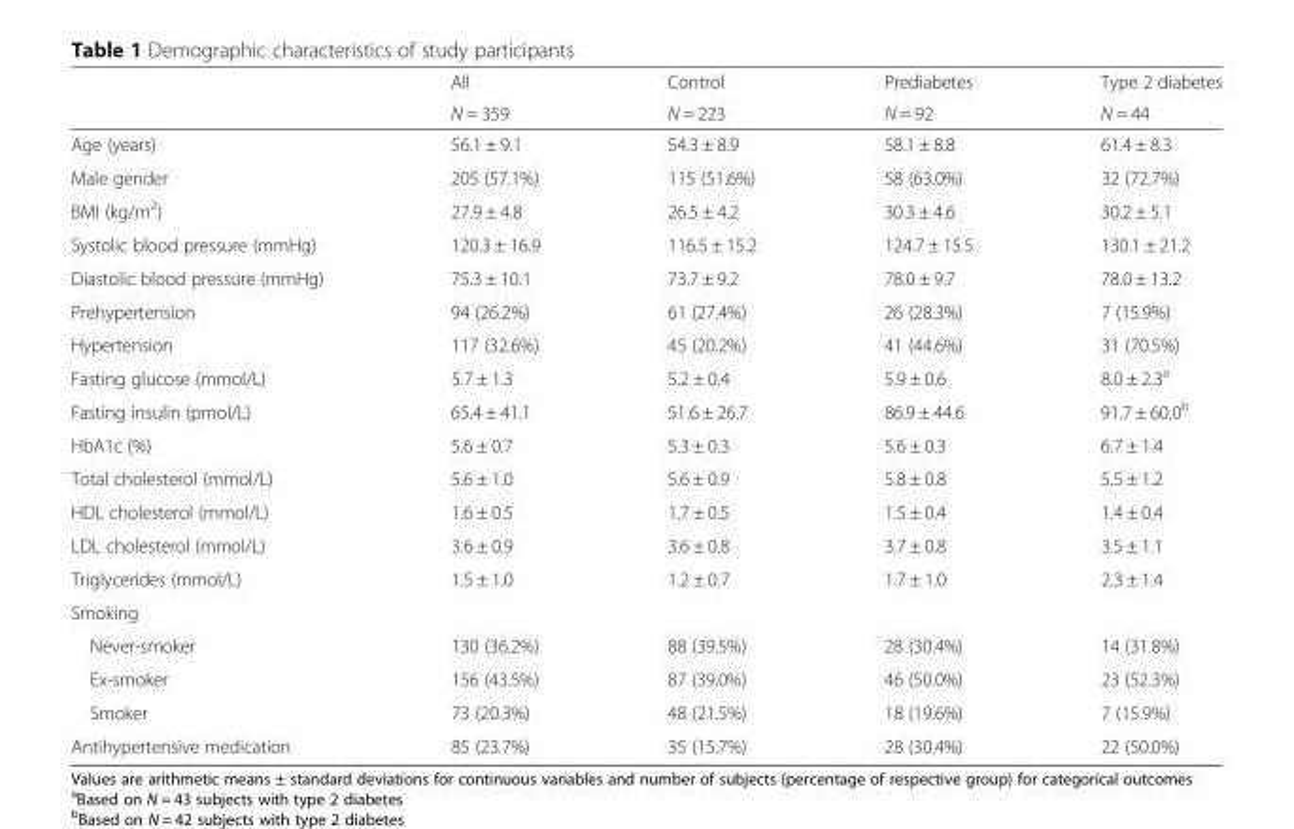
<table><thead><tr><td rowspan="2"></td><td rowspan="2">All N = 359</td><td rowspan="2">Control N = 223</td><td rowspan="2">Prediabetes N = 92</td><td rowspan="2">Type 2 diabetes N = 44</td></tr><tr></tr></thead><tbody><tr><td>Age (years)</td><td>56.1 ± 9.1</td><td>54.3 ± 8.9</td><td>58.1 ± 8.8</td><td>61.4 ± 8.3</td></tr><tr><td>Male gender</td><td>205 (57.1%)</td><td>115 (51.6%)</td><td>58 (63.0%)</td><td>32 (72.7%)</td></tr><tr><td>BMI (kg/m<sup>2</sup>)</td><td>27.9 ± 4.8</td><td>26.5 ± 4.2</td><td>30.3 ± 4.6</td><td>30.2 ± 5.1</td></tr><tr><td>Systolic blood pressure (mmHg)</td><td>120.3 ± 16.9</td><td>116.5 ± 15.2</td><td>124.7 ± 15.5</td><td>130.1 ± 21.2</td></tr><tr><td>Diastolic blood pressure (mmHg)</td><td>75.3 ± 10.1</td><td>73.7 ± 9.2</td><td>78.0 ± 9.7</td><td>78.0 ± 13.2</td></tr><tr><td>Prehypertension</td><td>94 (26.2%)</td><td>61 (27.4%)</td><td>26 (28.3%)</td><td>7 (15.9%)</td></tr><tr><td>Hypertension</td><td>117 (32.6%)</td><td>45 (20.2%)</td><td>41 (44.6%)</td><td>31 (70.5%)</td></tr><tr><td>Fasting glucose (mmol/L)</td><td>5.7 ± 1.3</td><td>5.2 ± 0.4</td><td>5.9 ± 0.6</td><td>8.0 ± 2.3<sup>a</sup></td></tr><tr><td>Fasting insulin (pmol/L)</td><td>65.4 ± 41.1</td><td>51.6 ± 26.7</td><td>86.9 ± 44.6</td><td>91.7 ± 60.0<sup>b</sup></td></tr><tr><td>HbA1c (%)</td><td>5.6 ± 0.7</td><td>5.3 ± 0.3</td><td>5.6 ± 0.3</td><td>6.7 ± 1.4</td></tr><tr><td>Total cholesterol (mmol/L)</td><td>5.6 ± 1.0</td><td>5.6 ± 0.9</td><td>5.8 ± 0.8</td><td>5.5 ± 1.2</td></tr><tr><td>HDL cholesterol (mmol/L)</td><td>1.6 ± 0.5</td><td>1.7 ± 0.5</td><td>1.5 ± 0.4</td><td>1.4 ± 0.4</td></tr><tr><td>LDL cholesterol (mmol/L)</td><td>3.6 ± 0.9</td><td>3.6 ± 0.8</td><td>3.7 ± 0.8</td><td>3.5 ± 1.1</td></tr><tr><td>Triglycerides (mmol/L)</td><td>1.5 ± 1.0</td><td>1.2 ± 0.7</td><td>1.7 ± 1.0</td><td>2.3 ± 1.4</td></tr><tr><td colspan="5">Smoking</td></tr><tr><td>Never-smoker</td><td>130 (36.2%)</td><td>88 (39.5%)</td><td>28 (30.4%)</td><td>14 (31.8%)</td></tr><tr><td>Ex-smoker</td><td>156 (43.5%)</td><td>87 (39.0%)</td><td>46 (50.0%)</td><td>23 (52.3%)</td></tr><tr><td>Smoker</td><td>73 (20.3%)</td><td>48 (21.5%)</td><td>18 (19.6%)</td><td>7 (15.9%)</td></tr><tr><td>Antihypertensive medication</td><td>85 (23.7%)</td><td>35 (15.7%)</td><td>28 (30.4%)</td><td>22 (50.0%)</td></tr></tbody></table>